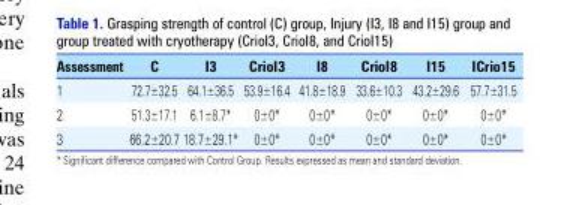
<table><thead><tr><td>Assessment</td><td>C</td><td>I3</td><td>CrioI3</td><td>I8</td><td>CrioI8</td><td>I15</td><td>ICrio15</td></tr></thead><tbody><tr><td>1</td><td>72.7±32.5</td><td>64.1±36.5</td><td>53.9±16.4</td><td>41.8±18.9</td><td>33.6±10.3</td><td>43.2±29.6</td><td>57.7±31.5</td></tr><tr><td>2</td><td>51.3±17.1</td><td>6.1±8.7*</td><td>0±0*</td><td>0±0*</td><td>0±0*</td><td>0±0*</td><td>0±0*</td></tr><tr><td>3</td><td>66.2±20.7</td><td>18.7±29.1*</td><td>0±0*</td><td>0±0*</td><td>0±0*</td><td>0±0*</td><td>0±0*</td></tr></tbody></table>